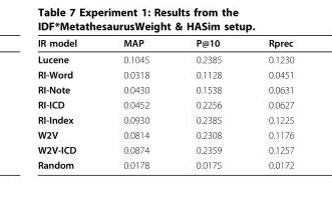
<table><thead><tr><td>IR model</td><td>MAP</td><td>P@10</td><td>Rprec</td></tr></thead><tbody><tr><td>Lucene</td><td>0.1045</td><td>0.2385</td><td>0.1230</td></tr><tr><td>RI-Word</td><td>0.0318</td><td>0.1128</td><td>0.0451</td></tr><tr><td>RI-Note</td><td>0.0430</td><td>0.1538</td><td>0.0631</td></tr><tr><td>RI-ICD</td><td>0.0452</td><td>0.2256</td><td>0.0627</td></tr><tr><td>RI-Index</td><td>0.0930</td><td>0.2385</td><td>0.1225</td></tr><tr><td>W2V</td><td>0.0814</td><td>0.2308</td><td>0.1176</td></tr><tr><td>W2V-ICD</td><td>0.0874</td><td>0.2359</td><td>0.1257</td></tr><tr><td>Random</td><td>0.0178</td><td>0.0175</td><td>0.0172</td></tr></tbody></table>